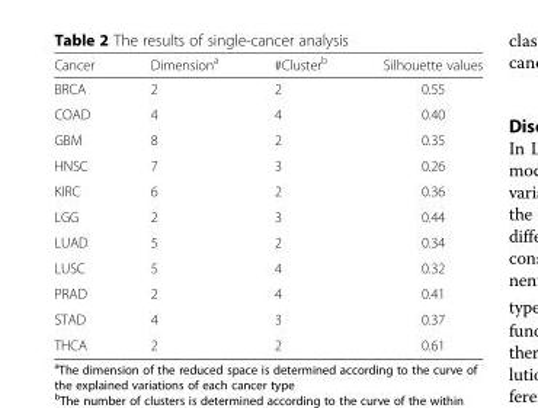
<table><thead><tr><td>Cancer</td><td>Dimension<sup>a</sup></td><td>#Cluster<sup>b</sup></td><td>Silhouette values</td></tr></thead><tbody><tr><td>BRCA</td><td>2</td><td>2</td><td>0.55</td></tr><tr><td>COAD</td><td>4</td><td>4</td><td>0.40</td></tr><tr><td>GBM</td><td>8</td><td>2</td><td>0.35</td></tr><tr><td>HNSC</td><td>7</td><td>3</td><td>0.26</td></tr><tr><td>KIRC</td><td>6</td><td>2</td><td>0.36</td></tr><tr><td>LGG</td><td>2</td><td>3</td><td>0.44</td></tr><tr><td>LUAD</td><td>5</td><td>2</td><td>0.34</td></tr><tr><td>LUSC</td><td>5</td><td>4</td><td>0.32</td></tr><tr><td>PRAD</td><td>2</td><td>4</td><td>0.41</td></tr><tr><td>STAD</td><td>4</td><td>3</td><td>0.37</td></tr><tr><td>THCA</td><td>2</td><td>2</td><td>0.61</td></tr></tbody></table>